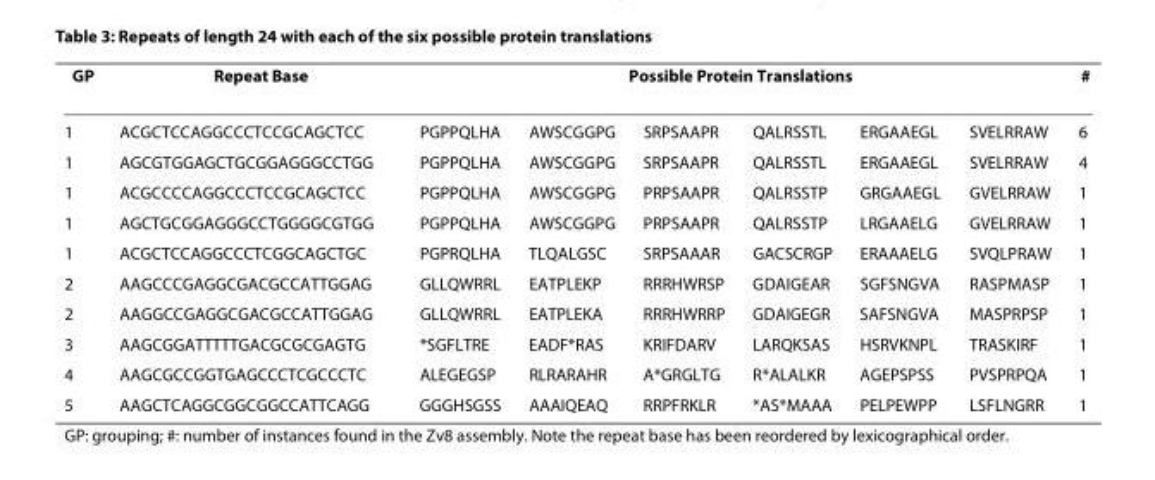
<table><thead><tr><td rowspan="2">GP 1</td><td rowspan="2">Repeat Base ACGCTCCAGGCCCTCCGCAGCTCC</td><td colspan="6">Possible Protein Translations</td><td rowspan="2"># 6</td></tr><tr><td>PGPPQLHA</td><td>AWSCGGPG</td><td>SRPSAAPR</td><td>QALRSSTL</td><td>ERGAAEGL</td><td>SVELRRAW</td></tr></thead><tbody><tr><td>1</td><td>AGCGTGGAGCTGCGGAGGGCCTGG</td><td>PGPPQLHA</td><td>AWSCGGPG</td><td>SRPSAAPR</td><td>QALRSSTL</td><td>ERGAAEGL</td><td>SVELRRAW</td><td>4</td></tr><tr><td>1</td><td>ACGCCCCAGGCCCTCCGCAGCTCC</td><td>PGPPQLHA</td><td>AWSCGGPG</td><td>PRPSAAPR</td><td>QALRSSTP</td><td>GRGAAEGL</td><td>GVELRRAW</td><td>1</td></tr><tr><td>1</td><td>AGCTGCGGAGGGCCTGGGGCGTGG</td><td>PGPPQLHA</td><td>AWSCGGPG</td><td>PRPSAAPR</td><td>QALRSSTP</td><td>LRGAAELG</td><td>GVELRRAW</td><td>1</td></tr><tr><td>1</td><td>ACGCTCCAGGCCCTCGGCAGCTGC</td><td>PGPRQLHA</td><td>TLQALGSC</td><td>SRPSAAAR</td><td>GACSCRGP</td><td>ERAAAELG</td><td>SVQLPRAW</td><td>1</td></tr><tr><td>2</td><td>AAGCCCGAGGCGACGCCATTGGAG</td><td>GLLQWRRL</td><td>EATPLEKP</td><td>RRRHWRSP</td><td>GDAIGEAR</td><td>SGFSNGVA</td><td>RASPMASP</td><td>1</td></tr><tr><td>2</td><td>AAGGCCGAGGCGACGCCATTGGAG</td><td>GLLQWRRL</td><td>EATPLEKA</td><td>RRRHWRRP</td><td>GDAIGEGR</td><td>SAFSNGVA</td><td>MASPRPSP</td><td>1</td></tr><tr><td>3</td><td>AAGCGGATTTTTGACGCGCGAGTG</td><td>*SGFLTRE</td><td>EADF*RAS</td><td>KRIFDARV</td><td>LARQKSAS</td><td>HSRVKNPL</td><td>TRASKIRF</td><td>1</td></tr><tr><td>4</td><td>AAGCGCCGGTGAGCCCTCGCCCTC</td><td>ALEGEGSP</td><td>RLRARAHR</td><td>A*GRGLTG</td><td>R*ALALKR</td><td>AGEPSPSS</td><td>PVSPRPQA</td><td>1</td></tr><tr><td>5</td><td>AAGCTCAGGCGGCGGCCATTCAGG</td><td>GGGHSGSS</td><td>AAAIQEAQ</td><td>RRPFRKLR</td><td>*AS*MAAA</td><td>PELPEWPP</td><td>LSFLNGRR</td><td>1</td></tr></tbody></table>